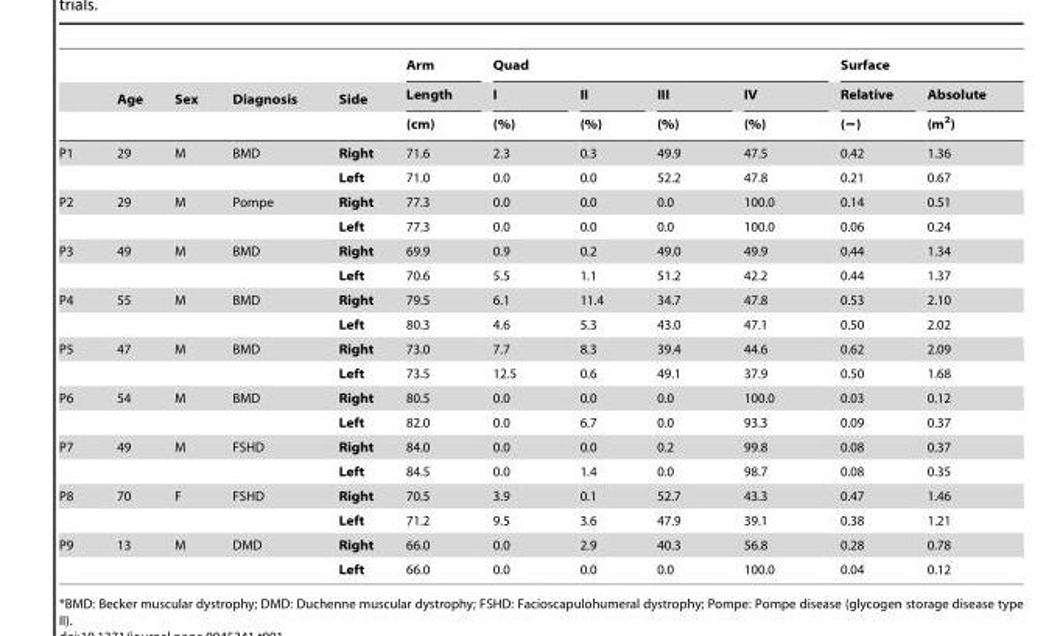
<table><thead><tr><td rowspan="3"></td><td rowspan="3">Age</td><td rowspan="3">Sex</td><td rowspan="3">Diagnosis</td><td rowspan="3">Side</td><td rowspan="3">Arm Length (cm)</td><td colspan="4">Quad</td><td colspan="2">Surface</td></tr><tr><td rowspan="2">I (%)</td><td rowspan="2">II (%)</td><td rowspan="2">III (%)</td><td rowspan="2">IV (%)</td><td rowspan="2">Relative (−)</td><td rowspan="2">Absolute (m<sup>2</sup>)</td></tr><tr></tr></thead><tbody><tr><td rowspan="2">P1</td><td>29</td><td>M</td><td>BMD</td><td>Right</td><td>71.6</td><td>2.3</td><td>0.3</td><td>49.9</td><td>47.5</td><td>0.42</td><td>1.36</td></tr><tr><td></td><td></td><td></td><td>Left</td><td>71.0</td><td>0.0</td><td>0.0</td><td>52.2</td><td>47.8</td><td>0.21</td><td>0.67</td></tr><tr><td rowspan="2">P2</td><td>29</td><td>M</td><td>Pompe</td><td>Right</td><td>77.3</td><td>0.0</td><td>0.0</td><td>0.0</td><td>100.0</td><td>0.14</td><td>0.51</td></tr><tr><td></td><td></td><td></td><td>Left</td><td>77.3</td><td>0.0</td><td>0.0</td><td>0.0</td><td>100.0</td><td>0.06</td><td>0.24</td></tr><tr><td rowspan="2">P3</td><td>49</td><td>M</td><td>BMD</td><td>Right</td><td>69.9</td><td>0.9</td><td>0.2</td><td>49.0</td><td>49.9</td><td>0.44</td><td>1.34</td></tr><tr><td></td><td></td><td></td><td>Left</td><td>70.6</td><td>5.5</td><td>1.1</td><td>51.2</td><td>42.2</td><td>0.44</td><td>1.37</td></tr><tr><td rowspan="2">P4</td><td>55</td><td>M</td><td>BMD</td><td>Right</td><td>79.5</td><td>6.1</td><td>11.4</td><td>34.7</td><td>47.8</td><td>0.53</td><td>2.10</td></tr><tr><td></td><td></td><td></td><td>Left</td><td>80.3</td><td>4.6</td><td>5.3</td><td>43.0</td><td>47.1</td><td>0.50</td><td>2.02</td></tr><tr><td rowspan="2">P5</td><td>47</td><td>M</td><td>BMD</td><td>Right</td><td>73.0</td><td>7.7</td><td>8.3</td><td>39.4</td><td>44.6</td><td>0.62</td><td>2.09</td></tr><tr><td></td><td></td><td></td><td>Left</td><td>73.5</td><td>12.5</td><td>0.6</td><td>49.1</td><td>37.9</td><td>0.50</td><td>1.68</td></tr><tr><td rowspan="2">P6</td><td>54</td><td>M</td><td>BMD</td><td>Right</td><td>80.5</td><td>0.0</td><td>0.0</td><td>0.0</td><td>100.0</td><td>0.03</td><td>0.12</td></tr><tr><td></td><td></td><td></td><td>Left</td><td>82.0</td><td>0.0</td><td>6.7</td><td>0.0</td><td>93.3</td><td>0.09</td><td>0.37</td></tr><tr><td rowspan="2">P7</td><td>49</td><td>M</td><td>FSHD</td><td>Right</td><td>84.0</td><td>0.0</td><td>0.0</td><td>0.2</td><td>99.8</td><td>0.08</td><td>0.37</td></tr><tr><td></td><td></td><td></td><td>Left</td><td>84.5</td><td>0.0</td><td>1.4</td><td>0.0</td><td>98.7</td><td>0.08</td><td>0.35</td></tr><tr><td rowspan="2">P8</td><td>70</td><td>F</td><td>FSHD</td><td>Right</td><td>70.5</td><td>3.9</td><td>0.1</td><td>52.7</td><td>43.3</td><td>0.47</td><td>1.46</td></tr><tr><td></td><td></td><td></td><td>Left</td><td>71.2</td><td>9.5</td><td>3.6</td><td>47.9</td><td>39.1</td><td>0.38</td><td>1.21</td></tr><tr><td rowspan="2">P9</td><td>13</td><td>M</td><td>DMD</td><td>Right</td><td>66.0</td><td>0.0</td><td>2.9</td><td>40.3</td><td>56.8</td><td>0.28</td><td>0.78</td></tr><tr><td></td><td></td><td></td><td>Left</td><td>66.0</td><td>0.0</td><td>0.0</td><td>0.0</td><td>100.0</td><td>0.04</td><td>0.12</td></tr></tbody></table>